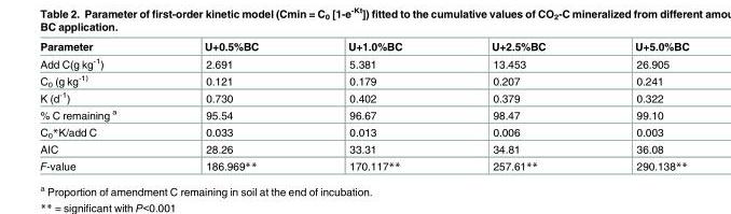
<table><thead><tr><td>Parameter</td><td>U+0.5%BC</td><td>U+1.0%BC</td><td>U+2.5%BC</td><td>U+5.0%BC</td></tr></thead><tbody><tr><td>Add C(g kg<sup>-1</sup>)</td><td>2.691</td><td>5.381</td><td>13.453</td><td>26.905</td></tr><tr><td>C<sub>0</sub> (g kg<sup>-1)</sup></td><td>0.121</td><td>0.179</td><td>0.207</td><td>0.241</td></tr><tr><td>K (d<sup>-1</sup>)</td><td>0.730</td><td>0.402</td><td>0.379</td><td>0.322</td></tr><tr><td>% C remaining <sup>a</sup></td><td>95.54</td><td>96.67</td><td>98.47</td><td>99.10</td></tr><tr><td>C<sub>0</sub>*K/add C</td><td>0.033</td><td>0.013</td><td>0.006</td><td>0.003</td></tr><tr><td>AIC</td><td>28.26</td><td>33.31</td><td>34.81</td><td>36.08</td></tr><tr><td>F-value</td><td>186.969**</td><td>170.117**</td><td>257.61**</td><td>290.138**</td></tr></tbody></table>